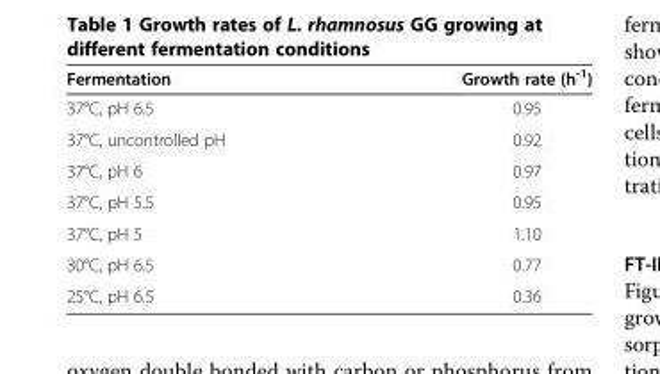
<table><thead><tr><td>Fermentation</td><td>Growth rate (h<sup>-1</sup>)</td></tr></thead><tbody><tr><td>37°C, pH 6.5</td><td>0.95</td></tr><tr><td>37°C, uncontrolled pH</td><td>0.92</td></tr><tr><td>37°C, pH 6</td><td>0.97</td></tr><tr><td>37°C, pH 5.5</td><td>0.95</td></tr><tr><td>37°C, pH 5</td><td>1.10</td></tr><tr><td>30°C, pH 6.5</td><td>0.77</td></tr><tr><td>25°C, pH 6.5</td><td>0.36</td></tr></tbody></table>